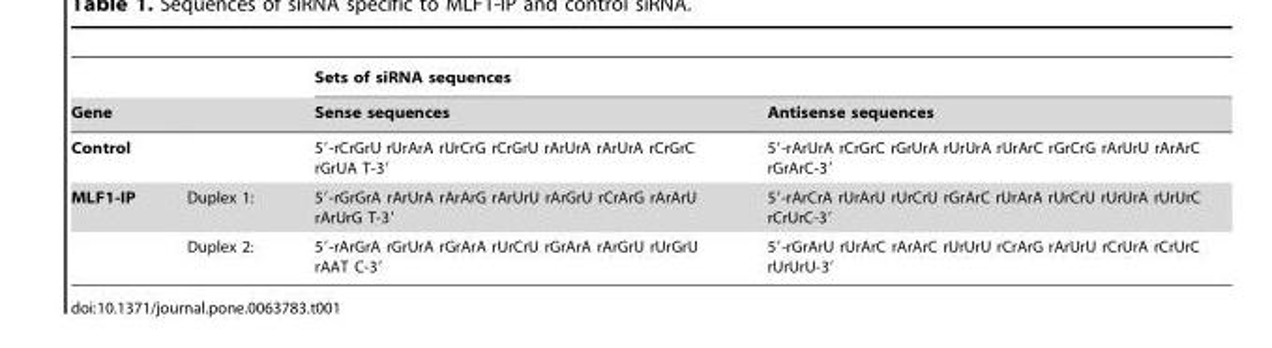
<table><thead><tr><td></td><td></td><td colspan="2">Sets of siRNA sequences</td></tr><tr><td colspan="2">Gene</td><td>Sense sequences</td><td>Antisense sequences</td></tr></thead><tbody><tr><td>Control</td><td></td><td>5′-rCrGrU rUrArA rUrCrG rCrGrU rArUrA rArUrA rCrGrC rGrUA T-3′</td><td>5′-rArUrA rCrGrC rGrUrA rUrUrA rUrArC rGrCrG rArUrU rArArC rGrArC-3′</td></tr><tr><td rowspan="2">MLF1-IP</td><td>Duplex 1:</td><td>5′-rGrGrA rArUrA rArArG rArUrU rArGrU rCrArG rArArU rArUrG T-3′</td><td>5′-rArCrA rUrArU rUrCrU rGrArC rUrArA rUrCrU rUrUrA rUrUrC rCrUrC-3′</td></tr><tr><td>Duplex 2:</td><td>5′-rArGrA rGrUrA rGrArA rUrCrU rGrArA rArGrU rUrGrU rAAT C-3′</td><td>5′-rGrArU rUrArC rArArC rUrUrU rCrArG rArUrU rCrUrA rCrUrC rUrUrU-3′</td></tr></tbody></table>